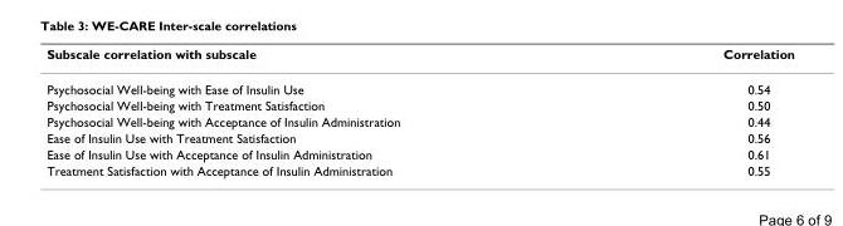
<table><thead><tr><td>Subscale correlation with subscale</td><td>Correlation</td></tr></thead><tbody><tr><td>Psychosocial Well-being with Ease of Insulin Use</td><td>0.54</td></tr><tr><td>Psychosocial Well-being with Treatment Satisfaction</td><td>0.50</td></tr><tr><td>Psychosocial Well-being with Acceptance of Insulin Administration</td><td>0.44</td></tr><tr><td>Ease of Insulin Use with Treatment Satisfaction</td><td>0.56</td></tr><tr><td>Ease of Insulin Use with Acceptance of Insulin Administration</td><td>0.61</td></tr><tr><td>Treatment Satisfaction with Acceptance of Insulin Administration</td><td>0.55</td></tr></tbody></table>